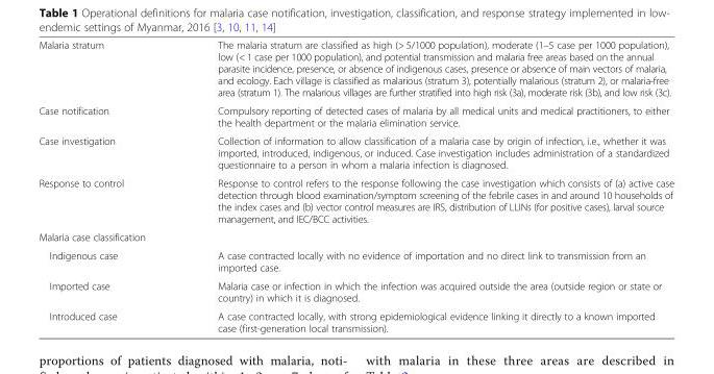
<table><tbody><tr><td>Malaria stratum</td><td>The malaria stratum are classified as high (&gt; 5/1000 population), moderate (1–5 case per 1000 population), low (&lt; 1 case per 1000 population), and potential transmission and malaria free areas based on the annual parasite incidence, presence, or absence of indigenous cases, presence or absence of main vectors of malaria, and ecology. Each village is classified as malarious (stratum 3), potentially malarious (stratum 2), or malaria-free area (stratum 1). The malarious villages are further stratified into high risk (3a), moderate risk (3b), and low risk (3c).</td></tr><tr><td>Case notification</td><td>Compulsory reporting of detected cases of malaria by all medical units and medical practitioners, to either the health department or the malaria elimination service.</td></tr><tr><td>Case investigation</td><td>Collection of information to allow classification of a malaria case by origin of infection, i.e., whether it was imported, introduced, indigenous, or induced. Case investigation includes administration of a standardized questionnaire to a person in whom a malaria infection is diagnosed.</td></tr><tr><td>Response to control</td><td>Response to control refers to the response following the case investigation which consists of (a) active case detection through blood examination/symptom screening of the febrile cases in and around 10 households of the index cases and (b) vector control measures are IRS, distribution of LLINs (for positive cases), larval source management, and IEC/BCC activities.</td></tr><tr><td colspan="2">Malaria case classification</td></tr><tr><td>Indigenous case</td><td>A case contracted locally with no evidence of importation and no direct link to transmission from an imported case.</td></tr><tr><td>Imported case</td><td>Malaria case or infection in which the infection was acquired outside the area (outside region or state or country) in which it is diagnosed.</td></tr><tr><td>Introduced case</td><td>A case contracted locally, with strong epidemiological evidence linking it directly to a known imported case (first-generation local transmission).</td></tr></tbody></table>